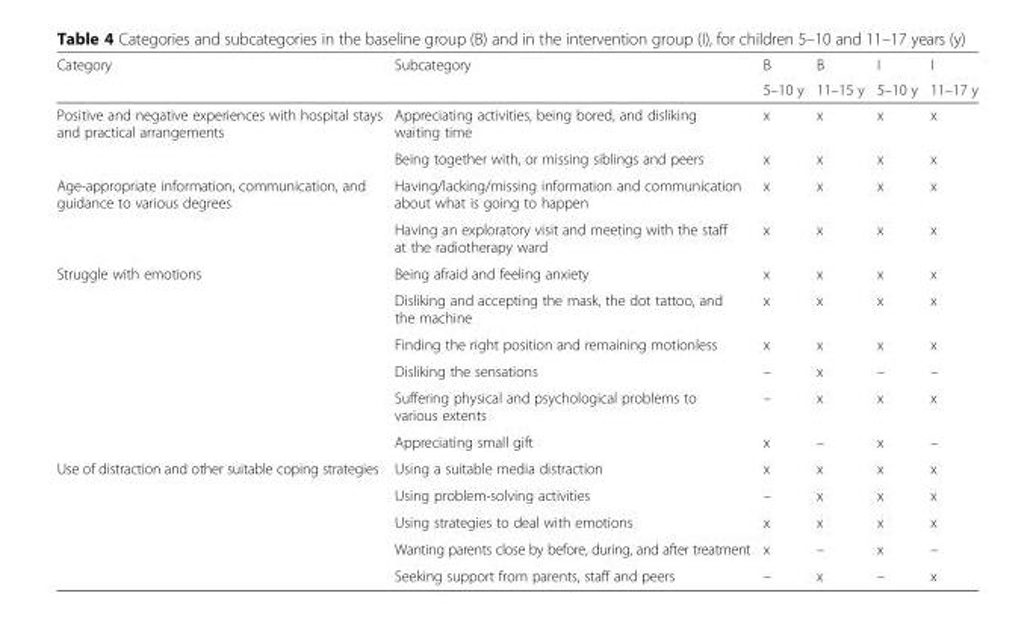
<table><thead><tr><td rowspan="2">Category</td><td rowspan="2">Subcategory</td><td rowspan="2">B 5–10 y</td><td rowspan="2">B 11–15 y</td><td rowspan="2">I 5–10 y</td><td rowspan="2">I 11–17 y</td></tr><tr></tr></thead><tbody><tr><td rowspan="2">Positive and negative experiences with hospital stays and practical arrangements</td><td>Appreciating activities, being bored, and disliking waiting time</td><td>x</td><td>x</td><td>x</td><td>x</td></tr><tr><td>Being together with, or missing siblings and peers</td><td>x</td><td>x</td><td>x</td><td>x</td></tr><tr><td rowspan="2">Age-appropriate information, communication, and guidance to various degrees</td><td>Having/lacking/missing information and communication about what is going to happen</td><td>x</td><td>x</td><td>x</td><td>x</td></tr><tr><td>Having an exploratory visit and meeting with the staff at the radiotherapy ward</td><td>x</td><td>x</td><td>x</td><td>x</td></tr><tr><td rowspan="6">Struggle with emotions</td><td>Being afraid and feeling anxiety</td><td>x</td><td>x</td><td>x</td><td>x</td></tr><tr><td>Disliking and accepting the mask, the dot tattoo, and the machine</td><td>x</td><td>x</td><td>x</td><td>x</td></tr><tr><td>Finding the right position and remaining motionless</td><td>x</td><td>x</td><td>x</td><td>x</td></tr><tr><td>Disliking the sensations</td><td>–</td><td>x</td><td>–</td><td>–</td></tr><tr><td>Suffering physical and psychological problems to various extents</td><td>–</td><td>x</td><td>x</td><td>x</td></tr><tr><td>Appreciating small gift</td><td>x</td><td>–</td><td>x</td><td>–</td></tr><tr><td rowspan="5">Use of distraction and other suitable coping strategies</td><td>Using a suitable media distraction</td><td>x</td><td>x</td><td>x</td><td>x</td></tr><tr><td>Using problem-solving activities</td><td>–</td><td>x</td><td>x</td><td>x</td></tr><tr><td>Using strategies to deal with emotions</td><td>x</td><td>x</td><td>x</td><td>x</td></tr><tr><td>Wanting parents close by before, during, and after treatment</td><td>x</td><td>–</td><td>x</td><td>–</td></tr><tr><td>Seeking support from parents, staff and peers</td><td>–</td><td>x</td><td>–</td><td>x</td></tr></tbody></table>